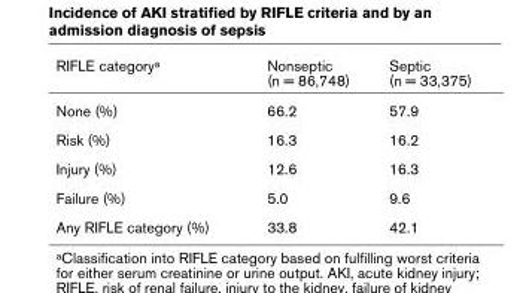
<table><thead><tr><td>RIFLE category<sup>a</sup></td><td>Nonseptic (n = 86,748)</td><td>Septic (n = 33,375)</td></tr></thead><tbody><tr><td>None (%)</td><td>66.2</td><td>57.9</td></tr><tr><td>Risk (%)</td><td>16.3</td><td>16.2</td></tr><tr><td>Injury (%)</td><td>12.6</td><td>16.3</td></tr><tr><td>Failure (%)</td><td>5.0</td><td>9.6</td></tr><tr><td>Any RIFLE category (%)</td><td>33.8</td><td>42.1</td></tr></tbody></table>